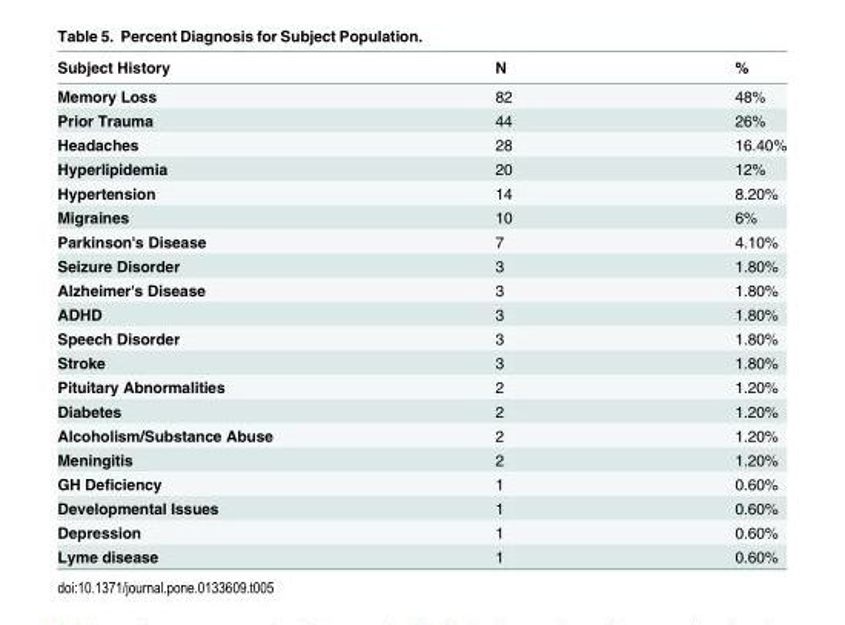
<table><thead><tr><td>Subject History</td><td>N</td><td>%</td></tr></thead><tbody><tr><td>Memory Loss</td><td>82</td><td>48%</td></tr><tr><td>Prior Trauma</td><td>44</td><td>26%</td></tr><tr><td>Headaches</td><td>28</td><td>16.40%</td></tr><tr><td>Hyperlipidemia</td><td>20</td><td>12%</td></tr><tr><td>Hypertension</td><td>14</td><td>8.20%</td></tr><tr><td>Migraines</td><td>10</td><td>6%</td></tr><tr><td>Parkinson&#x27;s Disease</td><td>7</td><td>4.10%</td></tr><tr><td>Seizure Disorder</td><td>3</td><td>1.80%</td></tr><tr><td>Alzheimer&#x27;s Disease</td><td>3</td><td>1.80%</td></tr><tr><td>ADHD</td><td>3</td><td>1.80%</td></tr><tr><td>Speech Disorder</td><td>3</td><td>1.80%</td></tr><tr><td>Stroke</td><td>3</td><td>1.80%</td></tr><tr><td>Pituitary Abnormalities</td><td>2</td><td>1.20%</td></tr><tr><td>Diabetes</td><td>2</td><td>1.20%</td></tr><tr><td>Alcoholism/Substance Abuse</td><td>2</td><td>1.20%</td></tr><tr><td>Meningitis</td><td>2</td><td>1.20%</td></tr><tr><td>GH Deficiency</td><td>1</td><td>0.60%</td></tr><tr><td>Developmental Issues</td><td>1</td><td>0.60%</td></tr><tr><td>Depression</td><td>1</td><td>0.60%</td></tr><tr><td>Lyme disease</td><td>1</td><td>0.60%</td></tr></tbody></table>